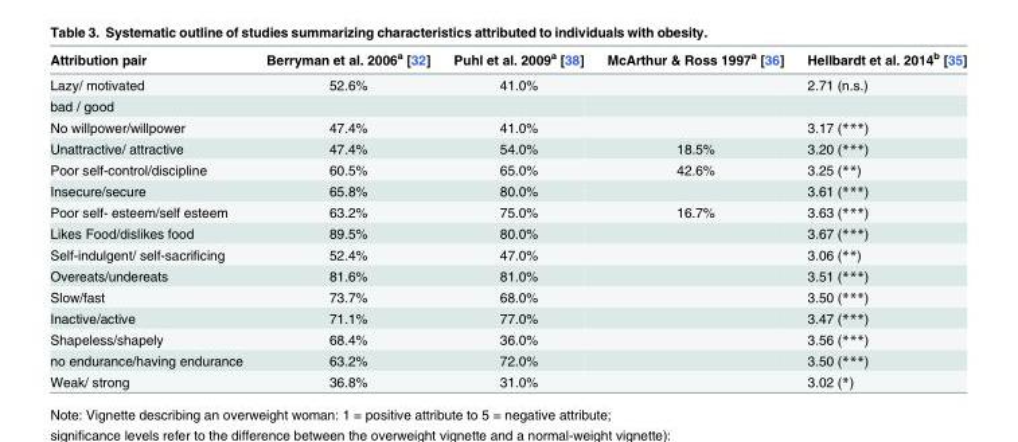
<table><thead><tr><td>Attribution pair</td><td>Berryman et al. 2006<sup>a</sup> [32]</td><td>Puhl et al. 2009<sup>a</sup> [38]</td><td>McArthur &amp; Ross 1997<sup>a</sup> [36]</td><td>Hellbardt et al. 2014<sup>b</sup> [35]</td></tr></thead><tbody><tr><td>Lazy/ motivated</td><td>52.6%</td><td>41.0%</td><td></td><td>2.71 (n.s.)</td></tr><tr><td colspan="5">bad / good</td></tr><tr><td>No willpower/willpower</td><td>47.4%</td><td>41.0%</td><td></td><td>3.17 (***)</td></tr><tr><td>Unattractive/ attractive</td><td>47.4%</td><td>54.0%</td><td>18.5%</td><td>3.20 (***)</td></tr><tr><td>Poor self-control/discipline</td><td>60.5%</td><td>65.0%</td><td>42.6%</td><td>3.25 (**)</td></tr><tr><td>Insecure/secure</td><td>65.8%</td><td>80.0%</td><td></td><td>3.61 (***)</td></tr><tr><td>Poor self- esteem/self esteem</td><td>63.2%</td><td>75.0%</td><td>16.7%</td><td>3.63 (***)</td></tr><tr><td>Likes Food/dislikes food</td><td>89.5%</td><td>80.0%</td><td></td><td>3.67 (***)</td></tr><tr><td>Self-indulgent/ self-sacrificing</td><td>52.4%</td><td>47.0%</td><td></td><td>3.06 (**)</td></tr><tr><td>Overeats/undereats</td><td>81.6%</td><td>81.0%</td><td></td><td>3.51 (***)</td></tr><tr><td>Slow/fast</td><td>73.7%</td><td>68.0%</td><td></td><td>3.50 (***)</td></tr><tr><td>Inactive/active</td><td>71.1%</td><td>77.0%</td><td></td><td>3.47 (***)</td></tr><tr><td>Shapeless/shapely</td><td>68.4%</td><td>36.0%</td><td></td><td>3.56 (***)</td></tr><tr><td>no endurance/having endurance</td><td>63.2%</td><td>72.0%</td><td></td><td>3.50 (***)</td></tr><tr><td>Weak/ strong</td><td>36.8%</td><td>31.0%</td><td></td><td>3.02 (*)</td></tr></tbody></table>